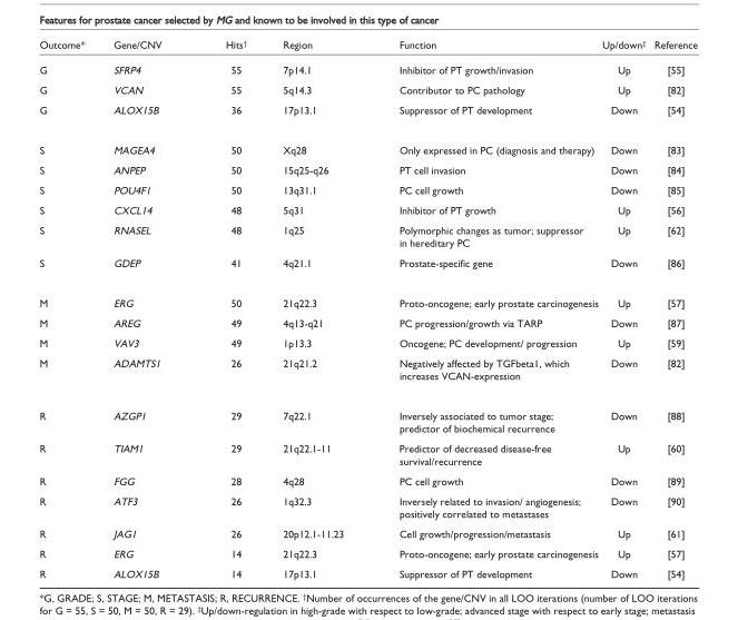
<table><thead><tr><td>Outcome*</td><td>Gene/CNV</td><td>Hits<sup>†</sup></td><td>Region</td><td>Function</td><td>Up/down<sup>‡</sup></td><td>Reference</td></tr></thead><tbody><tr><td>G</td><td>SFRP4</td><td>55</td><td>7p14.1</td><td>Inhibitor of PT growth/invasion</td><td>Up</td><td>[55]</td></tr><tr><td>G</td><td>VCAN</td><td>55</td><td>5q14.3</td><td>Contributor to PC pathology</td><td>Up</td><td>[82]</td></tr><tr><td>G</td><td>ALOX15B</td><td>36</td><td>17p13.1</td><td>Suppressor of PT development</td><td>Down</td><td>[54]</td></tr><tr><td>S</td><td>MAGEA4</td><td>50</td><td>Xq28</td><td>Only expressed in PC (diagnosis and therapy)</td><td>Down</td><td>[83]</td></tr><tr><td>S</td><td>ANPEP</td><td>50</td><td>15q25-q26</td><td>PT cell invasion</td><td>Down</td><td>[84]</td></tr><tr><td>S</td><td>POU4F1</td><td>50</td><td>13q31.1</td><td>PC cell growth</td><td>Down</td><td>[85]</td></tr><tr><td>S</td><td>CXCL14</td><td>48</td><td>5q31</td><td>Inhibitor of PT growth</td><td>Up</td><td>[56]</td></tr><tr><td>S</td><td>RNASEL</td><td>48</td><td>1q25</td><td>Polymorphic changes as tumor; suppressor in hereditary PC</td><td>Up</td><td>[62]</td></tr><tr><td>S</td><td>GDEP</td><td>41</td><td>4q21.1</td><td>Prostate-specific gene</td><td>Down</td><td>[86]</td></tr><tr><td>M</td><td>ERG</td><td>50</td><td>21q22.3</td><td>Proto-oncogene; early prostate carcinogenesis</td><td>Up</td><td>[57]</td></tr><tr><td>M</td><td>AREG</td><td>49</td><td>4q13-q21</td><td>PC progression/growth via TARP</td><td>Down</td><td>[87]</td></tr><tr><td>M</td><td>VAV3</td><td>49</td><td>1p13.3</td><td>Oncogene; PC development/ progression</td><td>Up</td><td>[59]</td></tr><tr><td>M</td><td>ADAMTS1</td><td>26</td><td>21q21.2</td><td>Negatively affected by TGFbeta1, which increases VCAN-expression</td><td>Down</td><td>[82]</td></tr><tr><td>R</td><td>AZGP1</td><td>29</td><td>7q22.1</td><td>Inversely associated to tumor stage; predictor of biochemical recurrence</td><td>Down</td><td>[88]</td></tr><tr><td>R</td><td>TIAM1</td><td>29</td><td>21q22.1-11</td><td>Predictor of decreased disease-free survival/recurrence</td><td>Up</td><td>[60]</td></tr><tr><td>R</td><td>FGG</td><td>28</td><td>4q28</td><td>PC cell growth</td><td>Down</td><td>[89]</td></tr><tr><td>R</td><td>ATF3</td><td>26</td><td>1q32.3</td><td>Inversely related to invasion/ angiogenesis; positively correlated to metastases</td><td>Down</td><td>[90]</td></tr><tr><td>R</td><td>JAG1</td><td>26</td><td>20p12.1-11.23</td><td>Cell growth/progression/metastasis</td><td>Up</td><td>[61]</td></tr><tr><td>R</td><td>ERG</td><td>14</td><td>21q22.3</td><td>Proto-oncogene; early prostate carcinogenesis</td><td>Up</td><td>[57]</td></tr><tr><td>R</td><td>ALOX15B</td><td>14</td><td>17p13.1</td><td>Suppressor of PT development</td><td>Down</td><td>[54]</td></tr></tbody></table>